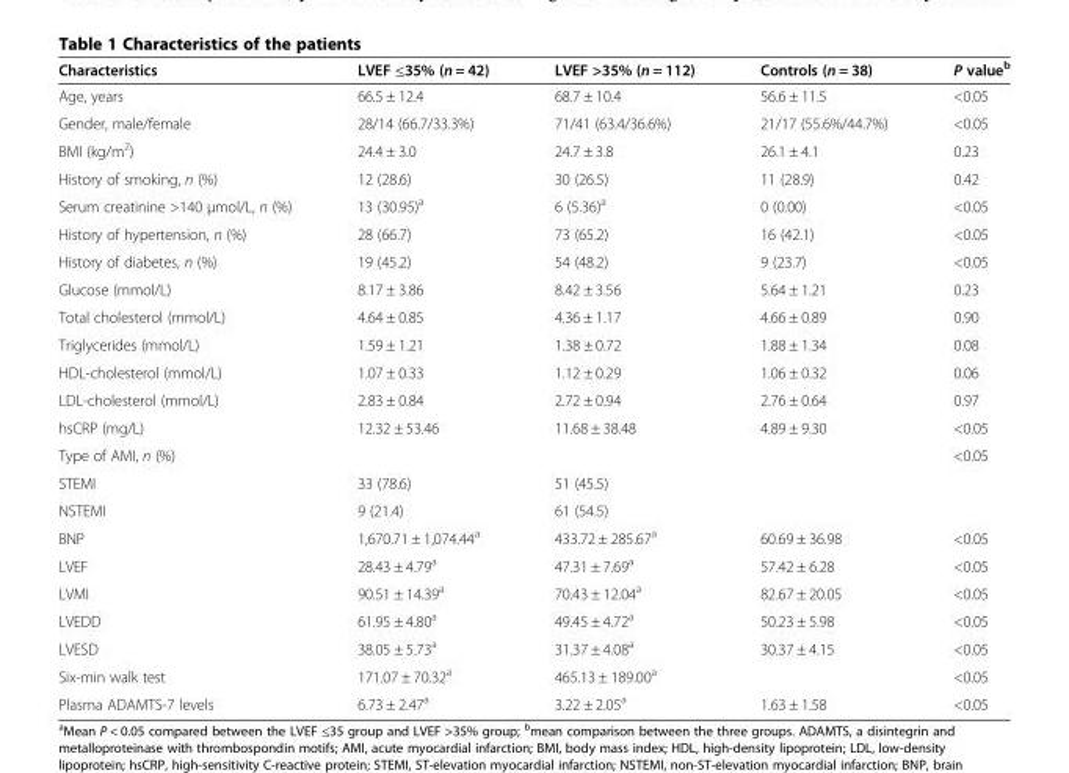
<table><thead><tr><td>Characteristics</td><td>LVEF ≤35% (n = 42)</td><td>LVEF &gt;35% (n = 112)</td><td>Controls (n = 38)</td><td>P value<sup>b</sup></td></tr></thead><tbody><tr><td>Age, years</td><td>66.5 ± 12.4</td><td>68.7 ± 10.4</td><td>56.6 ± 11.5</td><td>&lt;0.05</td></tr><tr><td>Gender, male/female</td><td>28/14 (66.7/33.3%)</td><td>71/41 (63.4/36.6%)</td><td>21/17 (55.6%/44.7%)</td><td>&lt;0.05</td></tr><tr><td>BMI (kg/m<sup>2</sup>)</td><td>24.4 ± 3.0</td><td>24.7 ± 3.8</td><td>26.1 ± 4.1</td><td>0.23</td></tr><tr><td>History of smoking, n (%)</td><td>12 (28.6)</td><td>30 (26.5)</td><td>11 (28.9)</td><td>0.42</td></tr><tr><td>Serum creatinine &gt;140 μmol/L, n (%)</td><td>13 (30.95)<sup>a</sup></td><td>6 (5.36)<sup>a</sup></td><td>0 (0.00)</td><td>&lt;0.05</td></tr><tr><td>History of hypertension, n (%)</td><td>28 (66.7)</td><td>73 (65.2)</td><td>16 (42.1)</td><td>&lt;0.05</td></tr><tr><td>History of diabetes, n (%)</td><td>19 (45.2)</td><td>54 (48.2)</td><td>9 (23.7)</td><td>&lt;0.05</td></tr><tr><td>Glucose (mmol/L)</td><td>8.17 ± 3.86</td><td>8.42 ± 3.56</td><td>5.64 ± 1.21</td><td>0.23</td></tr><tr><td>Total cholesterol (mmol/L)</td><td>4.64 ± 0.85</td><td>4.36 ± 1.17</td><td>4.66 ± 0.89</td><td>0.90</td></tr><tr><td>Triglycerides (mmol/L)</td><td>1.59 ± 1.21</td><td>1.38 ± 0.72</td><td>1.88 ± 1.34</td><td>0.08</td></tr><tr><td>HDL-cholesterol (mmol/L)</td><td>1.07 ± 0.33</td><td>1.12 ± 0.29</td><td>1.06 ± 0.32</td><td>0.06</td></tr><tr><td>LDL-cholesterol (mmol/L)</td><td>2.83 ± 0.84</td><td>2.72 ± 0.94</td><td>2.76 ± 0.64</td><td>0.97</td></tr><tr><td>hsCRP (mg/L)</td><td>12.32 ± 53.46</td><td>11.68 ± 38.48</td><td>4.89 ± 9.30</td><td>&lt;0.05</td></tr><tr><td>Type of AMI, n (%)</td><td colspan="3"></td><td>&lt;0.05</td></tr><tr><td>STEMI</td><td>33 (78.6)</td><td>51 (45.5)</td><td></td><td></td></tr><tr><td>NSTEMI</td><td>9 (21.4)</td><td>61 (54.5)</td><td></td><td></td></tr><tr><td>BNP</td><td>1,670.71 ± 1,074.44<sup>a</sup></td><td>433.72 ± 285.67<sup>a</sup></td><td>60.69 ± 36.98</td><td>&lt;0.05</td></tr><tr><td>LVEF</td><td>28.43 ± 4.79<sup>a</sup></td><td>47.31 ± 7.69<sup>a</sup></td><td>57.42 ± 6.28</td><td>&lt;0.05</td></tr><tr><td>LVMI</td><td>90.51 ± 14.39<sup>a</sup></td><td>70.43 ± 12.04<sup>a</sup></td><td>82.67 ± 20.05</td><td>&lt;0.05</td></tr><tr><td>LVEDD</td><td>61.95 ± 4.80<sup>a</sup></td><td>49.45 ± 4.72<sup>a</sup></td><td>50.23 ± 5.98</td><td>&lt;0.05</td></tr><tr><td>LVESD</td><td>38.05 ± 5.73<sup>a</sup></td><td>31.37 ± 4.08<sup>a</sup></td><td>30.37 ± 4.15</td><td>&lt;0.05</td></tr><tr><td>Six-min walk test</td><td>171.07 ± 70.32<sup>a</sup></td><td>465.13 ± 189.00<sup>a</sup></td><td></td><td>&lt;0.05</td></tr><tr><td>Plasma ADAMTS-7 levels</td><td>6.73 ± 2.47<sup>a</sup></td><td>3.22 ± 2.05<sup>a</sup></td><td>1.63 ± 1.58</td><td>&lt;0.05</td></tr></tbody></table>